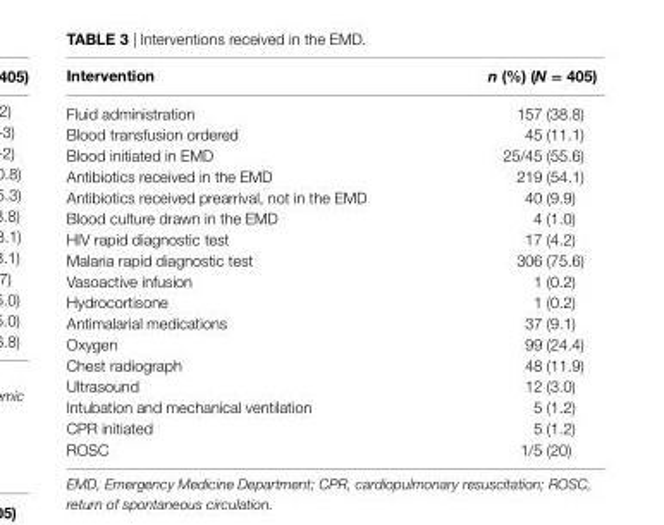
<table><thead><tr><td>intervention</td><td>n (%) (N = 405)</td></tr></thead><tbody><tr><td>Fluid administration</td><td>157 (38.8)</td></tr><tr><td>Blood transfusion ordered</td><td>45 (11.1)</td></tr><tr><td>Blood initiated in EMD</td><td>25/45 (55.6)</td></tr><tr><td>Antibiotics received in the EMD</td><td>219 (54.1)</td></tr><tr><td>Antibiotics received prearrival, not in the EMD</td><td>40 (9.9)</td></tr><tr><td>Blood culture drawn in the EMD</td><td>4 (1.0)</td></tr><tr><td>HIV rapid diagnostic test</td><td>17 (4.2)</td></tr><tr><td>Malaria rapid diagnostic test</td><td>306 (75.6)</td></tr><tr><td>Vasoactive infusion</td><td>1 (0.2)</td></tr><tr><td>Hydrocortisone</td><td>1 (0.2)</td></tr><tr><td>Antimalarial medications</td><td>37 (9.1)</td></tr><tr><td>Oxygen</td><td>99 (24.4)</td></tr><tr><td>Chest radiograph</td><td>48 (11.9)</td></tr><tr><td>Ultrasound</td><td>12 (3.0)</td></tr><tr><td>Intubation and mechanical ventilation</td><td>5 (1.2)</td></tr><tr><td>CPR initiated</td><td>5 (1.2)</td></tr><tr><td>ROSC</td><td>1/5 (20)</td></tr></tbody></table>